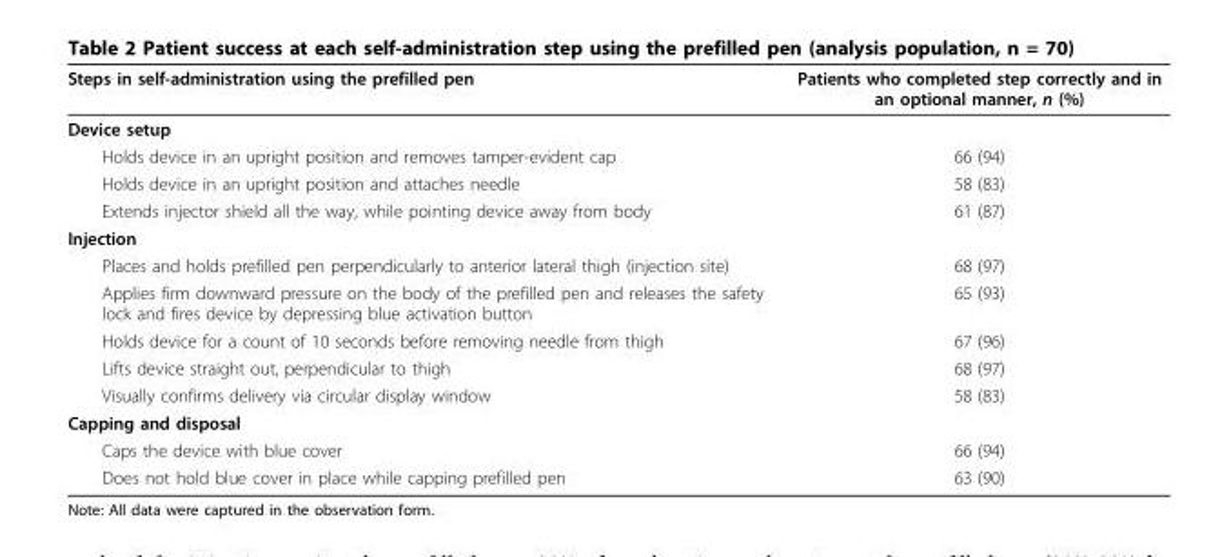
<table><thead><tr><td>Steps in self-administration using the prefilled pen</td><td>Patients who completed step correctly and in an optional manner, n (%)</td></tr></thead><tbody><tr><td colspan="2">Device setup</td></tr><tr><td>Holds device in an upright position and removes tamper-evident cap</td><td>66 (94)</td></tr><tr><td>Holds device in an upright position and attaches needle</td><td>58 (83)</td></tr><tr><td>Extends injector shield all the way, while pointing device away from body</td><td>61 (87)</td></tr><tr><td colspan="2">Injection</td></tr><tr><td>Places and holds prefilled pen perpendicularly to anterior lateral thigh (injection site)</td><td>68 (97)</td></tr><tr><td>Applies firm downward pressure on the body of the prefilled pen and releases the safety lock and fires device by depressing blue activation button</td><td>65 (93)</td></tr><tr><td>Holds device for a count of 10 seconds before removing needle from thigh</td><td>67 (96)</td></tr><tr><td>Lifts device straight out, perpendicular to thigh</td><td>68 (97)</td></tr><tr><td>Visually confirms delivery via circular display window</td><td>58 (83)</td></tr><tr><td colspan="2">Capping and disposal</td></tr><tr><td>Caps the device with blue cover</td><td>66 (94)</td></tr><tr><td>Does not hold blue cover in place while capping prefilled pen</td><td>63 (90)</td></tr></tbody></table>